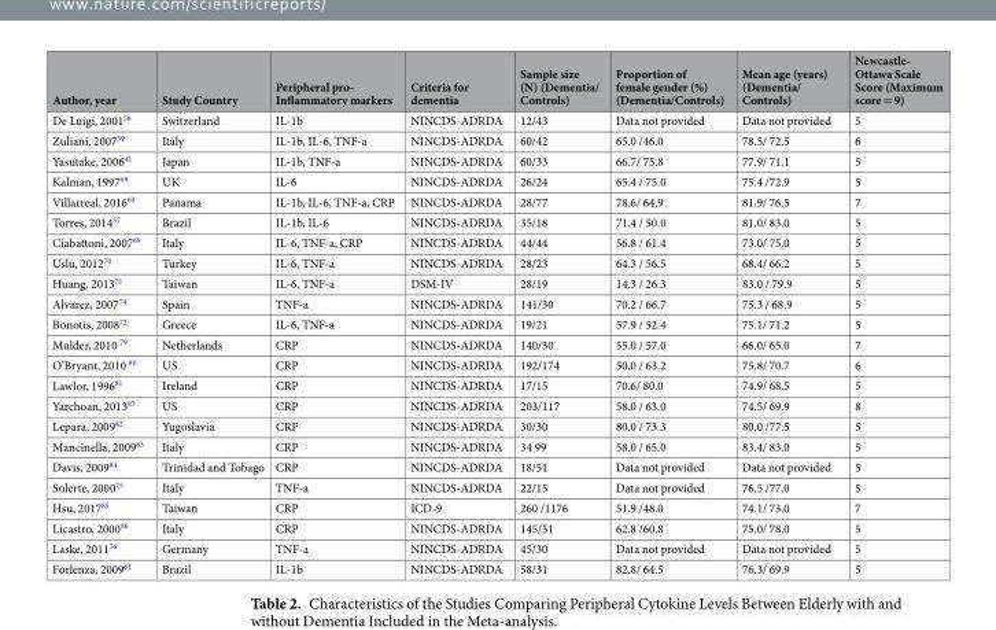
<table><thead><tr><td>Author, year</td><td>Study Country</td><td>Peripheral pro- Inflammatory markers</td><td>Criteria for dementia</td><td>Sample size (N) (Dementia/ Controls)</td><td>Proportion of female gender (%) (Dementia/Controls)</td><td>Mean age (years) (Dementia/ Controls)</td><td>Newcastle- Ottawa Scale Score (Maximum score = 9)</td></tr></thead><tbody><tr><td>De Luigi, 2001<sup>58</sup></td><td>Switzerland</td><td>IL-1b</td><td>NINCDS-ADRDA</td><td>12/43</td><td>Data not provided</td><td>Data not provided</td><td>5</td></tr><tr><td>Zuliani, 2007<sup>59</sup></td><td>Italy</td><td>IL-1b, IL-6, TNF-a</td><td>NINCDS-ADRDA</td><td>60/42</td><td>65.0 /46.0</td><td>78.5/ 72.5</td><td>6</td></tr><tr><td>Yasutake, 2006<sup>41</sup></td><td>Japan</td><td>IL-1b, TNF-a</td><td>NINCDS-ADRDA</td><td>60/33</td><td>66.7/ 75.8</td><td>77.9/ 71.1</td><td>5</td></tr><tr><td>Kalman, 1997<sup>68</sup></td><td>UK</td><td>IL-6</td><td>NINCDS-ADRDA</td><td>26/24</td><td>65.4 / 75.0</td><td>75.4 /72.9</td><td>5</td></tr><tr><td>Villarreal, 2016<sup>60</sup></td><td>Panama</td><td>IL-1b, IL-6, TNF-a, CRP</td><td>NINCDS-ADRDA</td><td>28/77</td><td>78.6/ 64.9</td><td>81.9/ 76.5</td><td>7</td></tr><tr><td>Torres, 2014<sup>57</sup></td><td>Brazil</td><td>IL-1b, IL-6</td><td>NINCDS-ADRDA</td><td>35/18</td><td>71.4 / 50.0</td><td>81.0/ 83.0</td><td>5</td></tr><tr><td>Ciabattoni, 2007<sup>69</sup></td><td>Italy</td><td>IL-6, TNF-a, CRP</td><td>NINCDS-ADRDA</td><td>44/44</td><td>56.8 / 61.4</td><td>73.0/ 75.0</td><td>5</td></tr><tr><td>Uslu, 2012<sup>70</sup></td><td>Turkey</td><td>IL-6, TNF-a</td><td>NINCDS-ADRDA</td><td>28/23</td><td>64.3 / 56.5</td><td>68.4/ 66.2</td><td>5</td></tr><tr><td>Huang, 2013<sup>71</sup></td><td>Taiwan</td><td>IL-6, TNF-a</td><td>DSM-IV</td><td>28/19</td><td>14.3 / 26.3</td><td>83.0 / 79.9</td><td>5</td></tr><tr><td>Alvarez, 2007<sup>74</sup></td><td>Spain</td><td>TNF-a</td><td>NINCDS-ADRDA</td><td>141/30</td><td>70.2 / 66.7</td><td>75.3 / 68.9</td><td>5</td></tr><tr><td>Bonotis, 2008<sup>72</sup></td><td>Greece</td><td>IL-6, TNF-a</td><td>NINCDS-ADRDA</td><td>19/21</td><td>57.9 / 52.4</td><td>75.1/ 71.2</td><td>5</td></tr><tr><td>Mulder, 2010 <sup>79</sup></td><td>Netherlands</td><td>CRP</td><td>NINCDS-ADRDA</td><td>140/30</td><td>55.0 / 57.0</td><td>66.0/ 65.0</td><td>7</td></tr><tr><td>O’Bryant, 2010 <sup>80</sup></td><td>US</td><td>CRP</td><td>NINCDS-ADRDA</td><td>192/174</td><td>50.0 / 63.2</td><td>75.8/ 70.7</td><td>6</td></tr><tr><td>Lawlor, 1996<sup>81</sup></td><td>Ireland</td><td>CRP</td><td>NINCDS-ADRDA</td><td>17/15</td><td>70.6/ 80.0</td><td>74.9/ 68.5</td><td>5</td></tr><tr><td>Yarchoan, 2013<sup>87</sup></td><td>US</td><td>CRP</td><td>NINCDS-ADRDA</td><td>203/117</td><td>58.0 / 63.0</td><td>74.5/ 69.9</td><td>8</td></tr><tr><td>Lepara, 2009<sup>82</sup></td><td>Yugoslavia</td><td>CRP</td><td>NINCDS-ADRDA</td><td>30/30</td><td>80.0 / 73.3</td><td>80.0 /77.5</td><td>5</td></tr><tr><td>Mancinella, 2009<sup>83</sup></td><td>Italy</td><td>CRP</td><td>NINCDS-ADRDA</td><td>34 99</td><td>58.0 / 65.0</td><td>83.4/ 83.0</td><td>5</td></tr><tr><td>Davis, 2009<sup>84</sup></td><td>Trinidad and Tobago</td><td>CRP</td><td>NINCDS-ADRDA</td><td>18/51</td><td>Data not provided</td><td>Data not provided</td><td>5</td></tr><tr><td>Solerte, 2000<sup>75</sup></td><td>Italy</td><td>TNF-a</td><td>NINCDS-ADRDA</td><td>22/15</td><td>Data not provided</td><td>76.5 /77.0</td><td>5</td></tr><tr><td>Hsu, 2017<sup>85</sup></td><td>Taiwan</td><td>CRP</td><td>ICD-9</td><td>260 /1176</td><td>51.9 /48.0</td><td>74.1/ 73.0</td><td>7</td></tr><tr><td>Licastro, 2000<sup>86</sup></td><td>Italy</td><td>CRP</td><td>NINCDS-ADRDA</td><td>145/51</td><td>62.8 /60.8</td><td>75.0/ 78.0</td><td>5</td></tr><tr><td>Laske, 2011<sup>76</sup></td><td>Germany</td><td>TNF-a</td><td>NINCDS-ADRDA</td><td>45/30</td><td>Data not provided</td><td>Data not provided</td><td>5</td></tr><tr><td>Forlenza, 2009<sup>61</sup></td><td>Brazil</td><td>IL-1b</td><td>NINCDS-ADRDA</td><td>58/31</td><td>82.8/ 64.5</td><td>76.3/ 69.9</td><td>5</td></tr></tbody></table>